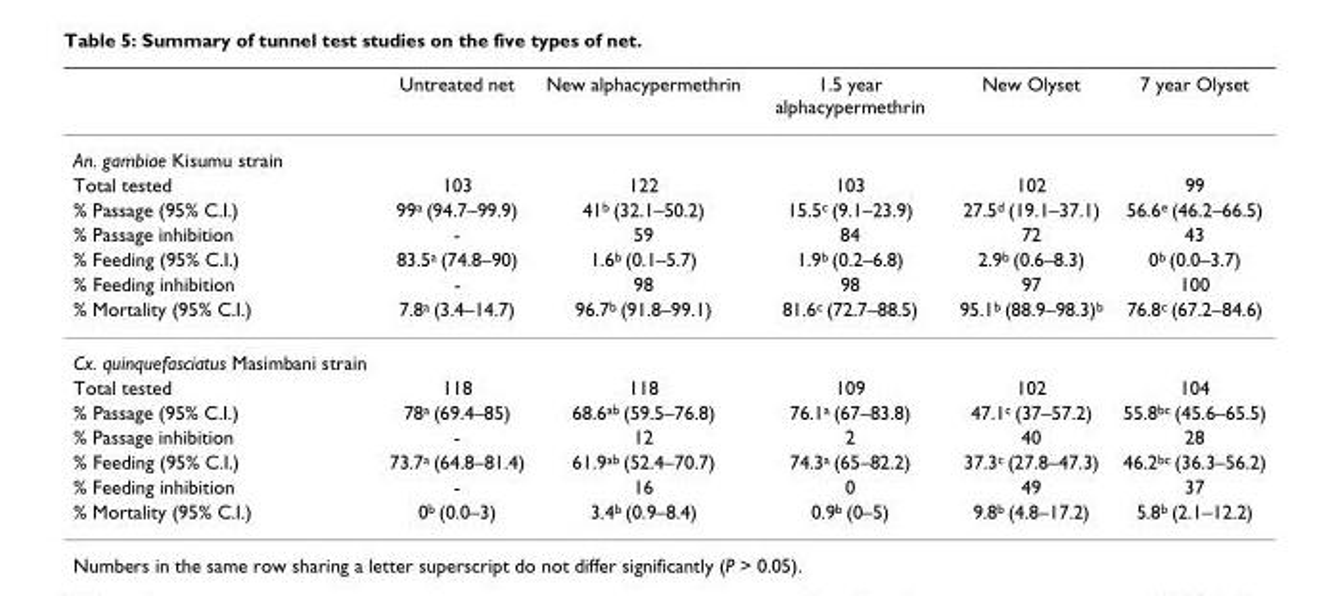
<table><thead><tr><td></td><td>Untreated net</td><td>New alphacypermethrin</td><td>1.5 year alphacypermethrin</td><td>New Olyset</td><td>7 year Olyset</td></tr></thead><tbody><tr><td colspan="6">An. gambiae Kisumu strain</td></tr><tr><td>Total tested</td><td>103</td><td>122</td><td>103</td><td>102</td><td>99</td></tr><tr><td>% Passage (95% C.I.)</td><td>99<sup>a</sup> (94.7–99.9)</td><td>41<sup>b</sup> (32.1–50.2)</td><td>15.5<sup>c</sup> (9.1–23.9)</td><td>27.5<sup>d</sup> (19.1–37.1)</td><td>56.6<sup>e</sup> (46.2–66.5)</td></tr><tr><td>% Passage inhibition</td><td>-</td><td>59</td><td>84</td><td>72</td><td>43</td></tr><tr><td>% Feeding (95% C.I.)</td><td>83.5<sup>a</sup> (74.8–90)</td><td>1.6<sup>b</sup> (0.1–5.7)</td><td>1.9<sup>b</sup> (0.2–6.8)</td><td>2.9<sup>b</sup> (0.6–8.3)</td><td>0<sup>b</sup> (0.0–3.7)</td></tr><tr><td>% Feeding inhibition</td><td>-</td><td>98</td><td>98</td><td>97</td><td>100</td></tr><tr><td>% Mortality (95% C.I.)</td><td>7.8<sup>a</sup> (3.4–14.7)</td><td>96.7<sup>b</sup> (91.8–99.1)</td><td>81.6<sup>c</sup> (72.7–88.5)</td><td>95.1<sup>b</sup> (88.9–98.3)<sup>b</sup></td><td>76.8<sup>c</sup> (67.2–84.6)</td></tr><tr><td colspan="6">Cx. quinquefasciatus Masimbani strain</td></tr><tr><td>Total tested</td><td>118</td><td>118</td><td>109</td><td>102</td><td>104</td></tr><tr><td>% Passage (95% C.I.)</td><td>78<sup>a</sup> (69.4–85)</td><td>68.6<sup>ab</sup> (59.5–76.8)</td><td>76.1<sup>a</sup> (67–83.8)</td><td>47.1<sup>c</sup> (37–57.2)</td><td>55.8<sup>bc</sup> (45.6–65.5)</td></tr><tr><td>% Passage inhibition</td><td>-</td><td>12</td><td>2</td><td>40</td><td>28</td></tr><tr><td>% Feeding (95% C.I.)</td><td>73.7<sup>a</sup> (64.8–81.4)</td><td>61.9<sup>ab</sup> (52.4–70.7)</td><td>74.3<sup>a</sup> (65–82.2)</td><td>37.3<sup>c</sup> (27.8–47.3)</td><td>46.2<sup>bc</sup> (36.3–56.2)</td></tr><tr><td>% Feeding inhibition</td><td>-</td><td>16</td><td>0</td><td>49</td><td>37</td></tr><tr><td>% Mortality (95% C.I.)</td><td>0<sup>b</sup> (0.0–3)</td><td>3.4<sup>b</sup> (0.9–8.4)</td><td>0.9<sup>b</sup> (0–5)</td><td>9.8<sup>b</sup> (4.8–17.2)</td><td>5.8<sup>b</sup> (2.1–12.2)</td></tr></tbody></table>